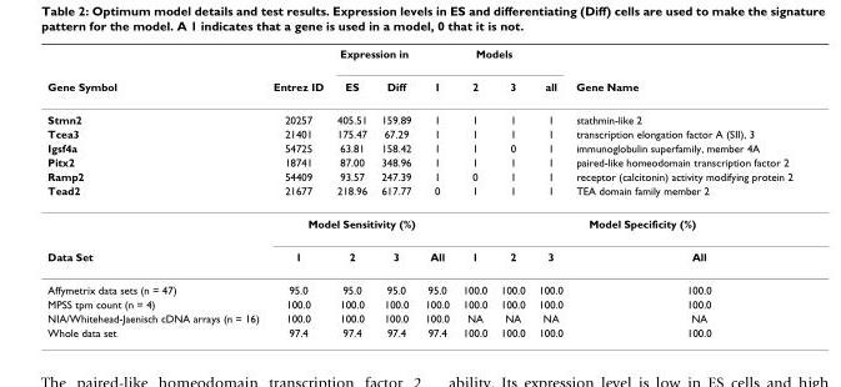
<table><thead><tr><td rowspan="2">Gene Symbol</td><td rowspan="2">Entrez ID</td><td colspan="2">Expression in</td><td colspan="4">Models</td><td rowspan="2">Gene Name</td></tr><tr><td>ES</td><td>Diff</td><td>1</td><td>2</td><td>3</td><td>all</td></tr></thead><tbody><tr><td>Stmn2</td><td>20257</td><td>405.51</td><td>159.89</td><td>1</td><td>1</td><td>1</td><td>1</td><td>stathmin-like 2</td></tr><tr><td>Tcea3</td><td>21401</td><td>175.47</td><td>67.29</td><td>1</td><td>1</td><td>1</td><td>1</td><td>transcription elongation factor A (SII), 3</td></tr><tr><td>Igsf4a</td><td>54725</td><td>63.81</td><td>158.42</td><td>1</td><td>1</td><td>0</td><td>1</td><td>immunoglobulin superfamily, member 4A</td></tr><tr><td>Pitx2</td><td>18741</td><td>87.00</td><td>348.96</td><td>1</td><td>1</td><td>1</td><td>1</td><td>paired-like homeodomain transcription factor 2</td></tr><tr><td>Ramp2</td><td>54409</td><td>93.57</td><td>247.39</td><td>1</td><td>0</td><td>1</td><td>1</td><td>receptor (calcitonin) activity modifying protein 2</td></tr><tr><td rowspan="2">Tead2</td><td>21677</td><td>218.96</td><td>617.77</td><td>0</td><td>1</td><td>1</td><td>1</td><td>TEA domain family member 2</td></tr><tr><td colspan="4">Model Sensitivity (%)</td><td colspan="4">Model Specificity (%)</td></tr><tr><td>Data Set</td><td>1</td><td>2</td><td>3</td><td>All</td><td>1</td><td>2</td><td>3</td><td>All</td></tr><tr><td>Affymetrix data sets (n = 47)</td><td>95.0</td><td>95.0</td><td>95.0</td><td>95.0</td><td>100.0</td><td>100.0</td><td>100.0</td><td>100.0</td></tr><tr><td>MPSS tpm count (n = 4)</td><td>100.0</td><td>100.0</td><td>100.0</td><td>100.0</td><td>100.0</td><td>100.0</td><td>100.0</td><td>100.0</td></tr><tr><td>NIA/Whitehead-Jaenisch cDNA arrays (n = 16)</td><td>100.0</td><td>100.0</td><td>100.0</td><td>100.0</td><td>NA</td><td>NA</td><td>NA</td><td>NA</td></tr><tr><td>Whole data set</td><td>97.4</td><td>97.4</td><td>97.4</td><td>97.4</td><td>100.0</td><td>100.0</td><td>100.0</td><td>100.0</td></tr></tbody></table>